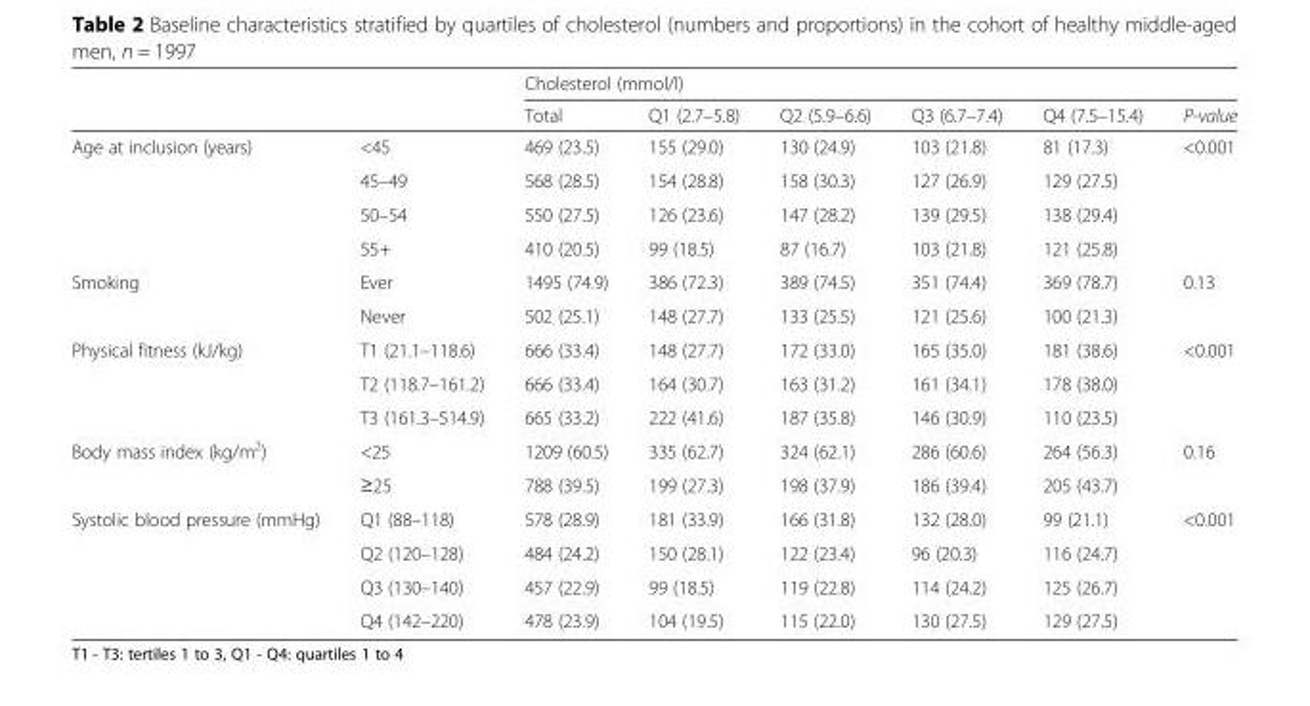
<table><thead><tr><td rowspan="2"></td><td rowspan="2"></td><td colspan="6">Cholesterol (mmol/l)</td></tr><tr><td>Total</td><td>Q1 (2.7–5.8)</td><td>Q2 (5.9–6.6)</td><td>Q3 (6.7–7.4)</td><td>Q4 (7.5–15.4)</td><td>P-value</td></tr></thead><tbody><tr><td rowspan="4">Age at inclusion (years)</td><td>&lt;45</td><td>469 (23.5)</td><td>155 (29.0)</td><td>130 (24.9)</td><td>103 (21.8)</td><td>81 (17.3)</td><td>&lt;0.001</td></tr><tr><td>45–49</td><td>568 (28.5)</td><td>154 (28.8)</td><td>158 (30.3)</td><td>127 (26.9)</td><td>129 (27.5)</td><td></td></tr><tr><td>50–54</td><td>550 (27.5)</td><td>126 (23.6)</td><td>147 (28.2)</td><td>139 (29.5)</td><td>138 (29.4)</td><td></td></tr><tr><td>55+</td><td>410 (20.5)</td><td>99 (18.5)</td><td>87 (16.7)</td><td>103 (21.8)</td><td>121 (25.8)</td><td></td></tr><tr><td rowspan="2">Smoking</td><td>Ever</td><td>1495 (74.9)</td><td>386 (72.3)</td><td>389 (74.5)</td><td>351 (74.4)</td><td>369 (78.7)</td><td>0.13</td></tr><tr><td>Never</td><td>502 (25.1)</td><td>148 (27.7)</td><td>133 (25.5)</td><td>121 (25.6)</td><td>100 (21.3)</td><td></td></tr><tr><td rowspan="3">Physical fitness (kJ/kg)</td><td>T1 (21.1–118.6)</td><td>666 (33.4)</td><td>148 (27.7)</td><td>172 (33.0)</td><td>165 (35.0)</td><td>181 (38.6)</td><td>&lt;0.001</td></tr><tr><td>T2 (118.7–161.2)</td><td>666 (33.4)</td><td>164 (30.7)</td><td>163 (31.2)</td><td>161 (34.1)</td><td>178 (38.0)</td><td></td></tr><tr><td>T3 (161.3–514.9)</td><td>665 (33.2)</td><td>222 (41.6)</td><td>187 (35.8)</td><td>146 (30.9)</td><td>110 (23.5)</td><td></td></tr><tr><td rowspan="2">Body mass index (kg/m<sup>2</sup>)</td><td>&lt;25</td><td>1209 (60.5)</td><td>335 (62.7)</td><td>324 (62.1)</td><td>286 (60.6)</td><td>264 (56.3)</td><td>0.16</td></tr><tr><td>≥25</td><td>788 (39.5)</td><td>199 (27.3)</td><td>198 (37.9)</td><td>186 (39.4)</td><td>205 (43.7)</td><td></td></tr><tr><td rowspan="4">Systolic blood pressure (mmHg)</td><td>Q1 (88–118)</td><td>578 (28.9)</td><td>181 (33.9)</td><td>166 (31.8)</td><td>132 (28.0)</td><td>99 (21.1)</td><td>&lt;0.001</td></tr><tr><td>Q2 (120–128)</td><td>484 (24.2)</td><td>150 (28.1)</td><td>122 (23.4)</td><td>96 (20.3)</td><td>116 (24.7)</td><td></td></tr><tr><td>Q3 (130–140)</td><td>457 (22.9)</td><td>99 (18.5)</td><td>119 (22.8)</td><td>114 (24.2)</td><td>125 (26.7)</td><td></td></tr><tr><td>Q4 (142–220)</td><td>478 (23.9)</td><td>104 (19.5)</td><td>115 (22.0)</td><td>130 (27.5)</td><td>129 (27.5)</td><td></td></tr></tbody></table>